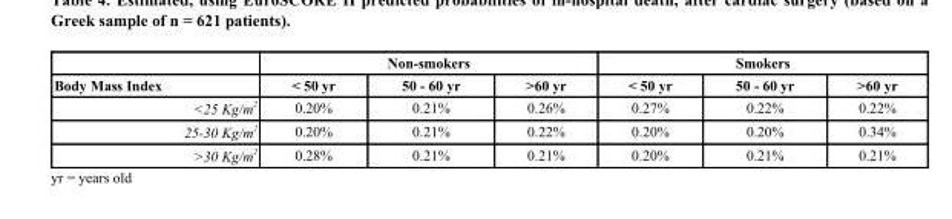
<table><thead><tr><td rowspan="2">Body Mass Index</td><td colspan="3">Non-smokers</td><td colspan="3">Smokers</td></tr><tr><td>&lt; 50 yr</td><td>50 - 60 yr</td><td>&gt;60 yr</td><td>&lt; 50 yr</td><td>50 - 60 yr</td><td>&gt;60 yr</td></tr></thead><tbody><tr><td>&lt;25 Kg/m <sup>2</sup></td><td>0.20%</td><td>0.21%</td><td>0.26%</td><td>0.27%</td><td>0.22%</td><td>0.22%</td></tr><tr><td>25-30 Kg/m <sup>2</sup></td><td>0.20%</td><td>0.21%</td><td>0.22%</td><td>0.20%</td><td>0.20%</td><td>0.34%</td></tr><tr><td>&gt;30 Kg/m <sup>2</sup></td><td>0.28%</td><td>0.21%</td><td>0.21%</td><td>0.20%</td><td>0.21%</td><td>0.21%</td></tr></tbody></table>